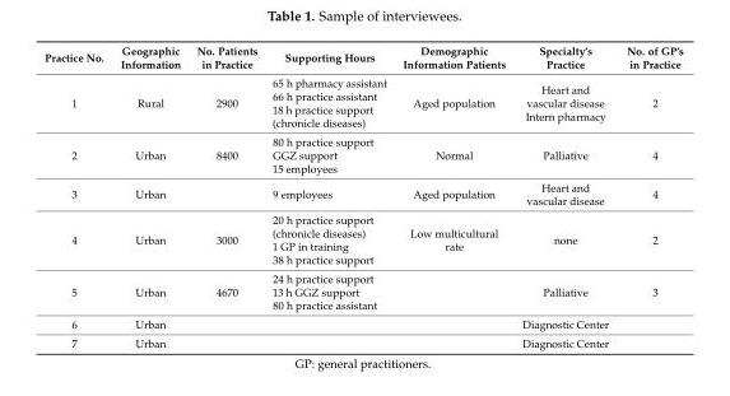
<table><thead><tr><td>Practice No.</td><td>Geographic Information</td><td>No. Patients in Practice</td><td>Supporting Hours</td><td>Demographic Information Patients</td><td>Specialty’s Practice</td><td>No. of GP’s in Practice</td></tr></thead><tbody><tr><td>1</td><td>Rural</td><td>2900</td><td>65 h pharmacy assistant 66 h practice assistant 18 h practice support (chronicle diseases)</td><td>Aged population</td><td>Heart and vascular disease Intern pharmacy</td><td>2</td></tr><tr><td>2</td><td>Urban</td><td>8400</td><td>80 h practice support GGZ support 15 employees</td><td>Normal</td><td>Palliative</td><td>4</td></tr><tr><td>3</td><td>Urban</td><td></td><td>9 employees</td><td>Aged population</td><td>Heart and vascular disease</td><td>4</td></tr><tr><td>4</td><td>Urban</td><td>3000</td><td>20 h practice support (chronicle diseases) 1 GP in training 38 h practice support</td><td>Low multicultural rate</td><td>none</td><td>2</td></tr><tr><td>5</td><td>Urban</td><td>4670</td><td>24 h practice support 13 h GGZ support 80 h practice assistant</td><td></td><td>Palliative</td><td>3</td></tr><tr><td>6</td><td>Urban</td><td></td><td></td><td></td><td>Diagnostic Center</td><td></td></tr><tr><td>7</td><td>Urban</td><td></td><td></td><td></td><td>Diagnostic Center</td><td></td></tr></tbody></table>